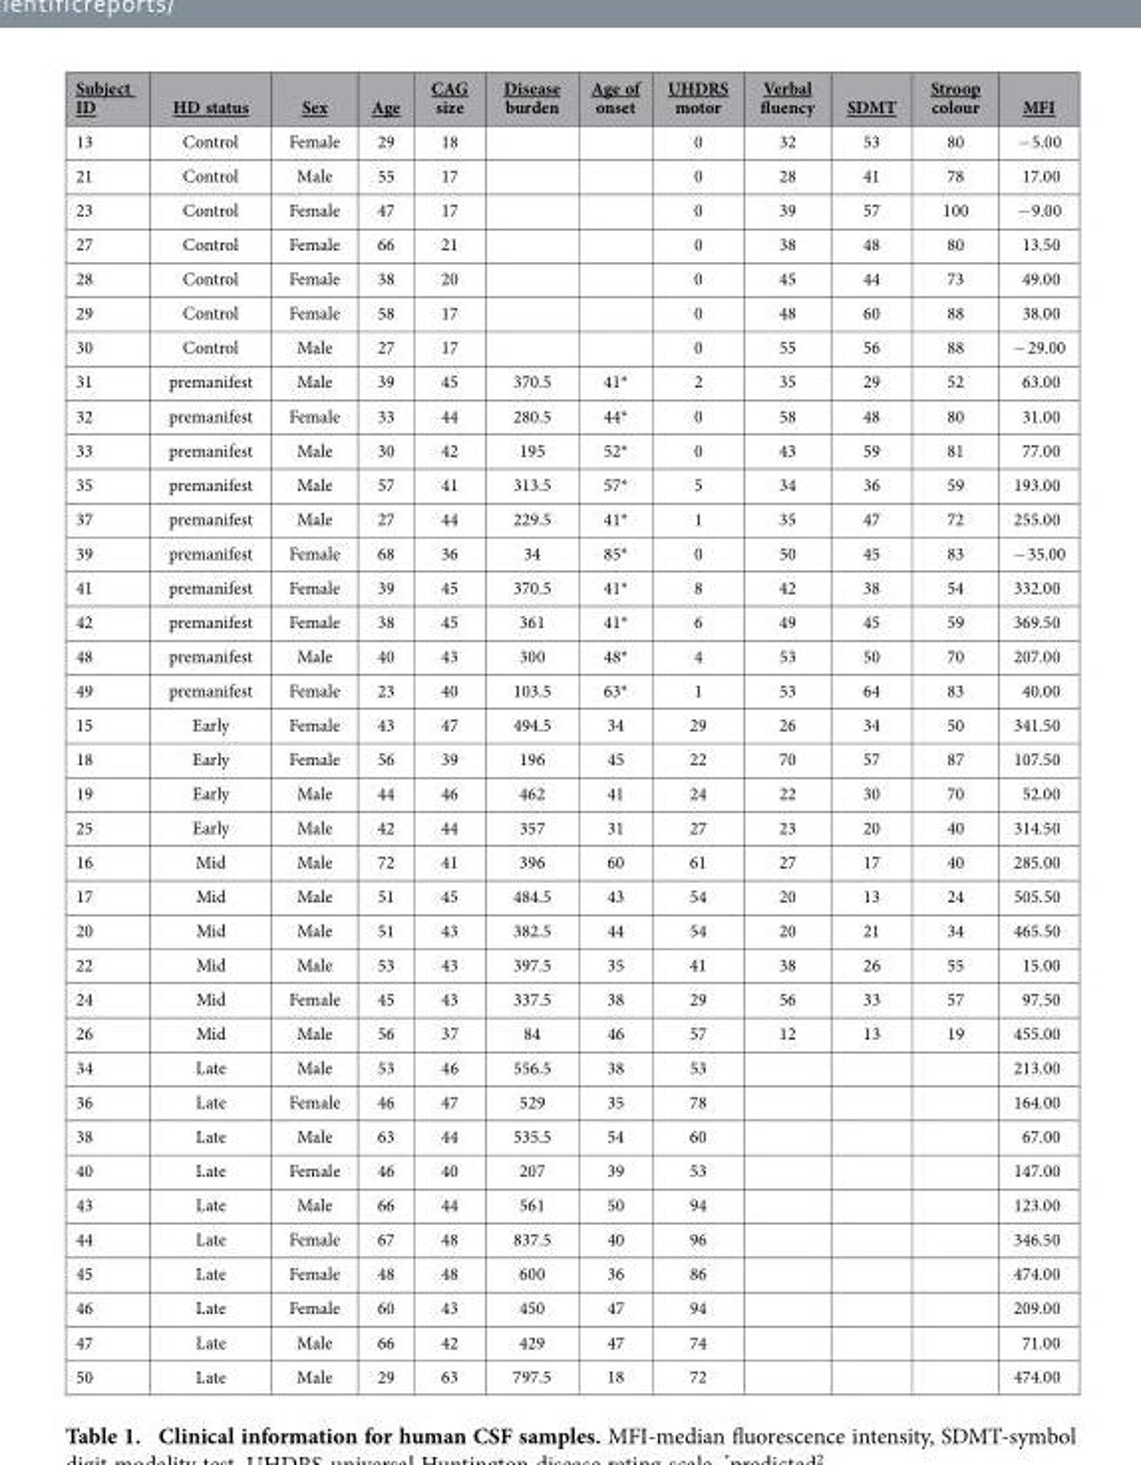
<table><thead><tr><td>Subject ID</td><td>HD status</td><td>Sex</td><td>Age</td><td>CAG size</td><td>Disease burden</td><td>Age of onset</td><td>UHDRS motor</td><td>Verbal fluency</td><td>SDMT</td><td>Stroop colour</td><td>MFI</td></tr></thead><tbody><tr><td>13</td><td>Control</td><td>Female</td><td>29</td><td>18</td><td></td><td></td><td>0</td><td>32</td><td>53</td><td>80</td><td>− 5.00</td></tr><tr><td>21</td><td>Control</td><td>Male</td><td>55</td><td>17</td><td></td><td></td><td>0</td><td>28</td><td>41</td><td>78</td><td>17.00</td></tr><tr><td>23</td><td>Control</td><td>Female</td><td>47</td><td>17</td><td></td><td></td><td>0</td><td>39</td><td>57</td><td>100</td><td>− 9.00</td></tr><tr><td>27</td><td>Control</td><td>Female</td><td>66</td><td>21</td><td></td><td></td><td>0</td><td>38</td><td>48</td><td>80</td><td>13.50</td></tr><tr><td>28</td><td>Control</td><td>Female</td><td>38</td><td>20</td><td></td><td></td><td>0</td><td>45</td><td>44</td><td>73</td><td>49.00</td></tr><tr><td>29</td><td>Control</td><td>Female</td><td>58</td><td>17</td><td></td><td></td><td>0</td><td>48</td><td>60</td><td>88</td><td>38.00</td></tr><tr><td>30</td><td>Control</td><td>Male</td><td>27</td><td>17</td><td></td><td></td><td>0</td><td>55</td><td>56</td><td>88</td><td>− 29.00</td></tr><tr><td>31</td><td>premanifest</td><td>Male</td><td>39</td><td>45</td><td>370.5</td><td>41*</td><td>2</td><td>35</td><td>29</td><td>52</td><td>63.00</td></tr><tr><td>32</td><td>premanifest</td><td>Female</td><td>33</td><td>44</td><td>280.5</td><td>44*</td><td>0</td><td>58</td><td>48</td><td>80</td><td>31.00</td></tr><tr><td>33</td><td>premanifest</td><td>Male</td><td>30</td><td>42</td><td>195</td><td>52*</td><td>0</td><td>43</td><td>59</td><td>81</td><td>77.00</td></tr><tr><td>35</td><td>premanifest</td><td>Male</td><td>57</td><td>41</td><td>313.5</td><td>57*</td><td>5</td><td>34</td><td>36</td><td>59</td><td>193.00</td></tr><tr><td>37</td><td>premanifest</td><td>Male</td><td>27</td><td>44</td><td>229.5</td><td>41*</td><td>1</td><td>35</td><td>47</td><td>72</td><td>255.00</td></tr><tr><td>39</td><td>premanifest</td><td>Female</td><td>68</td><td>36</td><td>34</td><td>85*</td><td>0</td><td>50</td><td>45</td><td>83</td><td>− 35.00</td></tr><tr><td>41</td><td>premanifest</td><td>Female</td><td>39</td><td>45</td><td>370.5</td><td>41*</td><td>8</td><td>42</td><td>38</td><td>54</td><td>332.00</td></tr><tr><td>42</td><td>premanifest</td><td>Female</td><td>38</td><td>45</td><td>361</td><td>41*</td><td>6</td><td>49</td><td>45</td><td>59</td><td>369.50</td></tr><tr><td>48</td><td>premanifest</td><td>Male</td><td>40</td><td>43</td><td>300</td><td>48*</td><td>4</td><td>53</td><td>50</td><td>70</td><td>207.00</td></tr><tr><td>49</td><td>premanifest</td><td>Female</td><td>23</td><td>40</td><td>103.5</td><td>63*</td><td>1</td><td>53</td><td>64</td><td>83</td><td>40.00</td></tr><tr><td>15</td><td>Early</td><td>Female</td><td>43</td><td>47</td><td>494.5</td><td>34</td><td>29</td><td>26</td><td>34</td><td>50</td><td>341.50</td></tr><tr><td>18</td><td>Early</td><td>Female</td><td>56</td><td>39</td><td>196</td><td>45</td><td>22</td><td>70</td><td>57</td><td>87</td><td>107.50</td></tr><tr><td>19</td><td>Early</td><td>Male</td><td>44</td><td>46</td><td>462</td><td>41</td><td>24</td><td>22</td><td>30</td><td>70</td><td>52.00</td></tr><tr><td>25</td><td>Early</td><td>Male</td><td>42</td><td>44</td><td>357</td><td>31</td><td>27</td><td>23</td><td>20</td><td>40</td><td>314.50</td></tr><tr><td>16</td><td>Mid</td><td>Male</td><td>72</td><td>41</td><td>396</td><td>60</td><td>61</td><td>27</td><td>17</td><td>40</td><td>285.00</td></tr><tr><td>17</td><td>Mid</td><td>Male</td><td>51</td><td>45</td><td>484.5</td><td>43</td><td>54</td><td>20</td><td>13</td><td>24</td><td>505.50</td></tr><tr><td>20</td><td>Mid</td><td>Male</td><td>51</td><td>43</td><td>382.5</td><td>44</td><td>54</td><td>20</td><td>21</td><td>34</td><td>465.50</td></tr><tr><td>22</td><td>Mid</td><td>Male</td><td>53</td><td>43</td><td>397.5</td><td>35</td><td>41</td><td>38</td><td>26</td><td>55</td><td>15.00</td></tr><tr><td>24</td><td>Mid</td><td>Female</td><td>45</td><td>43</td><td>337.5</td><td>38</td><td>29</td><td>56</td><td>33</td><td>57</td><td>97.50</td></tr><tr><td>26</td><td>Mid</td><td>Male</td><td>56</td><td>37</td><td>84</td><td>46</td><td>57</td><td>12</td><td>13</td><td>19</td><td>455.00</td></tr><tr><td>34</td><td>Late</td><td>Male</td><td>53</td><td>46</td><td>556.5</td><td>38</td><td>53</td><td></td><td></td><td></td><td>213.00</td></tr><tr><td>36</td><td>Late</td><td>Female</td><td>46</td><td>47</td><td>529</td><td>35</td><td>78</td><td></td><td></td><td></td><td>164.00</td></tr><tr><td>38</td><td>Late</td><td>Male</td><td>63</td><td>44</td><td>535.5</td><td>54</td><td>60</td><td></td><td></td><td></td><td>67.00</td></tr><tr><td>40</td><td>Late</td><td>Female</td><td>46</td><td>40</td><td>207</td><td>39</td><td>53</td><td></td><td></td><td></td><td>147.00</td></tr><tr><td>43</td><td>Late</td><td>Male</td><td>66</td><td>44</td><td>561</td><td>50</td><td>94</td><td></td><td></td><td></td><td>123.00</td></tr><tr><td>44</td><td>Late</td><td>Female</td><td>67</td><td>48</td><td>837.5</td><td>40</td><td>96</td><td></td><td></td><td></td><td>346.50</td></tr><tr><td>45</td><td>Late</td><td>Female</td><td>48</td><td>48</td><td>600</td><td>36</td><td>86</td><td></td><td></td><td></td><td>474.00</td></tr><tr><td>46</td><td>Late</td><td>Female</td><td>60</td><td>43</td><td>450</td><td>47</td><td>94</td><td></td><td></td><td></td><td>209.00</td></tr><tr><td>47</td><td>Late</td><td>Male</td><td>66</td><td>42</td><td>429</td><td>47</td><td>74</td><td></td><td></td><td></td><td>71.00</td></tr><tr><td>50</td><td>Late</td><td>Male</td><td>29</td><td>63</td><td>797.5</td><td>18</td><td>72</td><td></td><td></td><td></td><td>474.00</td></tr></tbody></table>